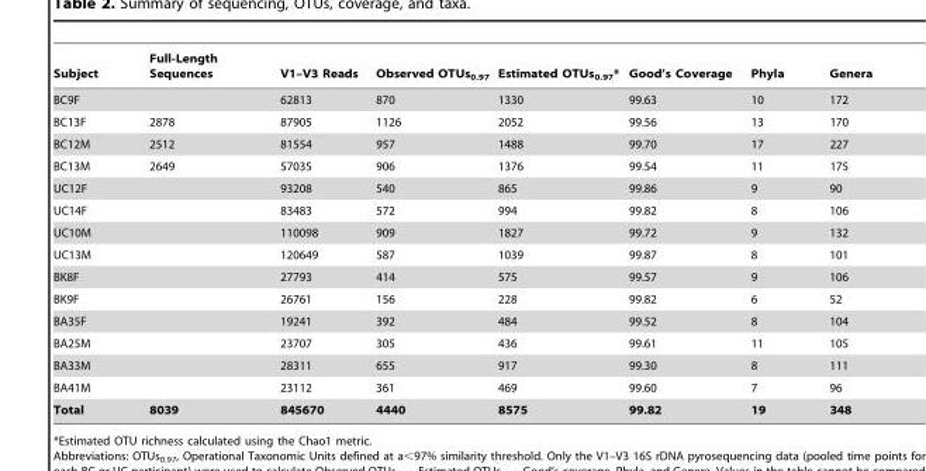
<table><thead><tr><td>Subject</td><td>Full-Length Sequences</td><td>V1–V3 Reads</td><td>Observed OTUs<sub>0.97</sub></td><td>Estimated OTUs<sub>0.97</sub>*</td><td>Good’s Coverage</td><td>Phyla</td><td>Genera</td></tr></thead><tbody><tr><td>BC9F</td><td></td><td>62813</td><td>870</td><td>1330</td><td>99.63</td><td>10</td><td>172</td></tr><tr><td>BC13F</td><td>2878</td><td>87905</td><td>1126</td><td>2052</td><td>99.56</td><td>13</td><td>170</td></tr><tr><td>BC12M</td><td>2512</td><td>81554</td><td>957</td><td>1488</td><td>99.70</td><td>17</td><td>227</td></tr><tr><td>BC13M</td><td>2649</td><td>57035</td><td>906</td><td>1376</td><td>99.54</td><td>11</td><td>175</td></tr><tr><td>UC12F</td><td></td><td>93208</td><td>540</td><td>865</td><td>99.86</td><td>9</td><td>90</td></tr><tr><td>UC14F</td><td></td><td>83483</td><td>572</td><td>994</td><td>99.82</td><td>8</td><td>106</td></tr><tr><td>UC10M</td><td></td><td>110098</td><td>909</td><td>1827</td><td>99.72</td><td>9</td><td>132</td></tr><tr><td>UC13M</td><td></td><td>120649</td><td>587</td><td>1039</td><td>99.87</td><td>8</td><td>101</td></tr><tr><td>BK8F</td><td></td><td>27793</td><td>414</td><td>575</td><td>99.57</td><td>9</td><td>106</td></tr><tr><td>BK9F</td><td></td><td>26761</td><td>156</td><td>228</td><td>99.82</td><td>6</td><td>52</td></tr><tr><td>BA35F</td><td></td><td>19241</td><td>392</td><td>484</td><td>99.52</td><td>8</td><td>104</td></tr><tr><td>BA25M</td><td></td><td>23707</td><td>305</td><td>436</td><td>99.61</td><td>11</td><td>105</td></tr><tr><td>BA33M</td><td></td><td>28311</td><td>655</td><td>917</td><td>99.30</td><td>8</td><td>111</td></tr><tr><td>BA41M</td><td></td><td>23112</td><td>361</td><td>469</td><td>99.60</td><td>7</td><td>96</td></tr><tr><td>Total</td><td>8039</td><td>845670</td><td>4440</td><td>8575</td><td>99.82</td><td>19</td><td>348</td></tr></tbody></table>